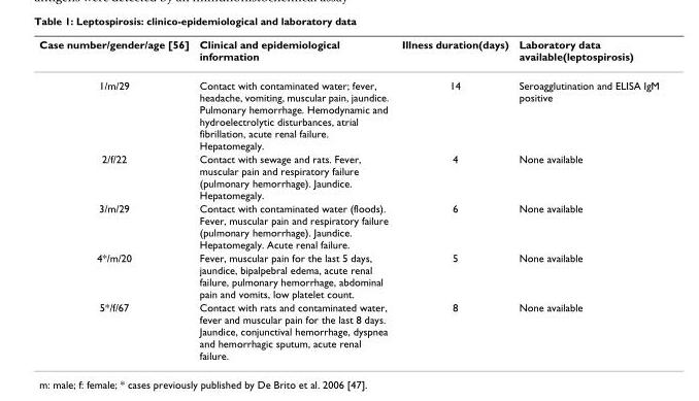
<table><thead><tr><td>Case number/gender/age [56]</td><td>Clinical and epidemiological information</td><td>Illness duration(days)</td><td>Laboratory data available(leptospirosis)</td></tr></thead><tbody><tr><td>1/m/29</td><td>Contact with contaminated water; fever, headache, vomiting, muscular pain, jaundice. Pulmonary hemorrhage. Hemodynamic and hydroelectrolytic disturbances, atrial fibrillation, acute renal failure. Hepatomegaly.</td><td>14</td><td>Seroagglutination and ELISA IgM positive</td></tr><tr><td>2/f/22</td><td>Contact with sewage and rats. Fever, muscular pain and respiratory failure (pulmonary hemorrhage). Jaundice. Hepatomegaly.</td><td>4</td><td>None available</td></tr><tr><td>3/m/29</td><td>Contact with contaminated water (floods). Fever, muscular pain and respiratory failure (pulmonary hemorrhage). Jaundice. Hepatomegaly. Acute renal failure.</td><td>6</td><td>None available</td></tr><tr><td>4*/m/20</td><td>Fever, muscular pain for the last 5 days, jaundice, bipalpebral edema, acute renal failure, pulmonary hemorrhage, abdominal pain and vomits, low platelet count.</td><td>5</td><td>None available</td></tr><tr><td>5*/f/67</td><td>Contact with rats and contaminated water, fever and muscular pain for the last 8 days. Jaundice, conjunctival hemorrhage, dyspnea and hemorrhagic sputum, acute renal failure.</td><td>8</td><td>None available</td></tr></tbody></table>